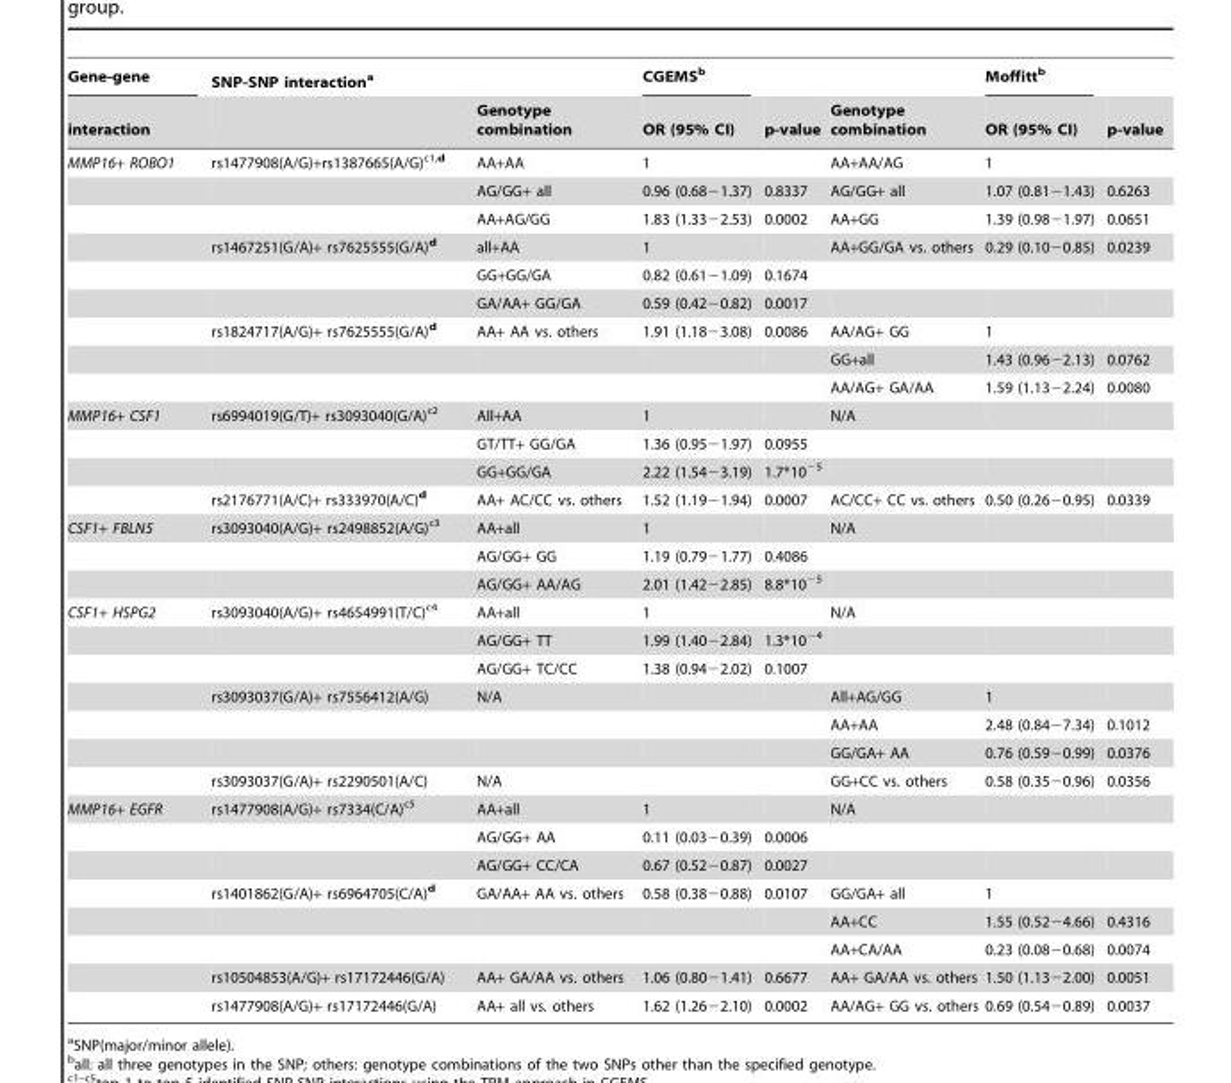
<table><thead><tr><td rowspan="2">Gene-gene interaction</td><td rowspan="2">SNP-SNP interaction<sup>a</sup></td><td rowspan="2">Genotype combination</td><td rowspan="2">CGEMS<sup>b</sup> OR (95% CI)</td><td rowspan="2">p-value</td><td rowspan="2">Genotype combination</td><td rowspan="2">Moffitt<sup>b</sup> OR (95% CI)</td><td rowspan="2">p-value</td></tr><tr></tr></thead><tbody><tr><td rowspan="9">MMP16+ ROBO1</td><td>rs1477908(A/G)+rs1387665(A/G)<sup>c1,</sup>d</td><td>AA+AA</td><td>1</td><td></td><td>AA+AA/AG</td><td>1</td><td></td></tr><tr><td></td><td>AG/GG+ all</td><td>0.96 (0.68−1.37)</td><td>0.8337</td><td>AG/GG+ all</td><td>1.07 (0.81−1.43)</td><td>0.6263</td></tr><tr><td></td><td>AA+AG/GG</td><td>1.83 (1.33−2.53)</td><td>0.0002</td><td>AA+GG</td><td>1.39 (0.98−1.97)</td><td>0.0651</td></tr><tr><td>rs1467251(G/A)+ rs7625555(G/A)<sup>d</sup></td><td>all+AA</td><td>1</td><td></td><td>AA+GG/GA vs. others</td><td>0.29 (0.10−0.85)</td><td>0.0239</td></tr><tr><td></td><td>GG+GG/GA</td><td>0.82 (0.61−1.09)</td><td>0.1674</td><td></td><td></td><td></td></tr><tr><td></td><td>GA/AA+ GG/GA</td><td>0.59 (0.42−0.82)</td><td>0.0017</td><td></td><td></td><td></td></tr><tr><td>rs1824717(A/G)+ rs7625555(G/A)<sup>d</sup></td><td>AA+ AA vs. others</td><td>1.91 (1.18−3.08)</td><td>0.0086</td><td>AA/AG+ GG</td><td>1</td><td></td></tr><tr><td></td><td></td><td></td><td></td><td>GG+all</td><td>1.43 (0.96−2.13)</td><td>0.0762</td></tr><tr><td></td><td></td><td></td><td></td><td>AA/AG+ GA/AA</td><td>1.59 (1.13−2.24)</td><td>0.0080</td></tr><tr><td rowspan="4">MMP16+ CSF1</td><td>rs6994019(G/T)+ rs3093040(G/A)<sup>c2</sup></td><td>All+AA</td><td>1</td><td></td><td>N/A</td><td></td><td></td></tr><tr><td></td><td>GT/TT+ GG/GA</td><td>1.36 (0.95−1.97)</td><td>0.0955</td><td></td><td></td><td></td></tr><tr><td></td><td>GG+GG/GA</td><td>2.22 (1.54−3.19)</td><td>1.7*10<sup>−5</sup></td><td></td><td></td><td></td></tr><tr><td>rs2176771(A/C)+ rs333970(A/C)<sup>d</sup></td><td>AA+ AC/CC vs. others</td><td>1.52 (1.19−1.94)</td><td>0.0007</td><td>AC/CC+ CC vs. others</td><td>0.50 (0.26−0.95)</td><td>0.0339</td></tr><tr><td rowspan="3">CSF1+ FBLN5</td><td>rs3093040(A/G)+ rs2498852(A/G)<sup>c3</sup></td><td>AA+all</td><td>1</td><td></td><td>N/A</td><td></td><td></td></tr><tr><td></td><td>AG/GG+ GG</td><td>1.19 (0.79−1.77)</td><td>0.4086</td><td></td><td></td><td></td></tr><tr><td></td><td>AG/GG+ AA/AG</td><td>2.01 (1.42−2.85)</td><td>8.8*10<sup>−5</sup></td><td></td><td></td><td></td></tr><tr><td rowspan="7">CSF1+ HSPG2</td><td>rs3093040(A/G)+ rs4654991(T/C)<sup>c4</sup></td><td>AA+all</td><td>1</td><td></td><td>N/A</td><td></td><td></td></tr><tr><td></td><td>AG/GG+ TT</td><td>1.99 (1.40−2.84)</td><td>1.3*10<sup>−4</sup></td><td></td><td></td><td></td></tr><tr><td></td><td>AG/GG+ TC/CC</td><td>1.38 (0.94−2.02)</td><td>0.1007</td><td></td><td></td><td></td></tr><tr><td>rs3093037(G/A)+ rs7556412(A/G)</td><td>N/A</td><td></td><td></td><td>All+AG/GG</td><td>1</td><td></td></tr><tr><td></td><td></td><td></td><td></td><td>AA+AA</td><td>2.48 (0.84−7.34)</td><td>0.1012</td></tr><tr><td></td><td></td><td></td><td></td><td>GG/GA+ AA</td><td>0.76 (0.59−0.99)</td><td>0.0376</td></tr><tr><td>rs3093037(G/A)+ rs2290501(A/C)</td><td>N/A</td><td></td><td></td><td>GG+CC vs. others</td><td>0.58 (0.35−0.96)</td><td>0.0356</td></tr><tr><td rowspan="8">MMP16+ EGFR</td><td>rs1477908(A/G)+ rs7334(C/A)<sup>c5</sup></td><td>AA+all</td><td>1</td><td></td><td>N/A</td><td></td><td></td></tr><tr><td></td><td>AG/GG+ AA</td><td>0.11 (0.03−0.39)</td><td>0.0006</td><td></td><td></td><td></td></tr><tr><td></td><td>AG/GG+ CC/CA</td><td>0.67 (0.52−0.87)</td><td>0.0027</td><td></td><td></td><td></td></tr><tr><td>rs1401862(G/A)+ rs6964705(C/A)<sup>d</sup></td><td>GA/AA+ AA vs. others</td><td>0.58 (0.38−0.88)</td><td>0.0107</td><td>GG/GA+ all</td><td>1</td><td></td></tr><tr><td></td><td></td><td></td><td></td><td>AA+CC</td><td>1.55 (0.52−4.66)</td><td>0.4316</td></tr><tr><td></td><td></td><td></td><td></td><td>AA+CA/AA</td><td>0.23 (0.08−0.68)</td><td>0.0074</td></tr><tr><td>rs10504853(A/G)+ rs17172446(G/A)</td><td>AA+ GA/AA vs. others</td><td>1.06 (0.80−1.41)</td><td>0.6677</td><td>AA+ GA/AA vs. others</td><td>1.50 (1.13−2.00)</td><td>0.0051</td></tr><tr><td>rs1477908(A/G)+ rs17172446(G/A)</td><td>AA+ all vs. others</td><td>1.62 (1.26−2.10)</td><td>0.0002</td><td>AA/AG+ GG vs. others</td><td>0.69 (0.54−0.89)</td><td>0.0037</td></tr></tbody></table>